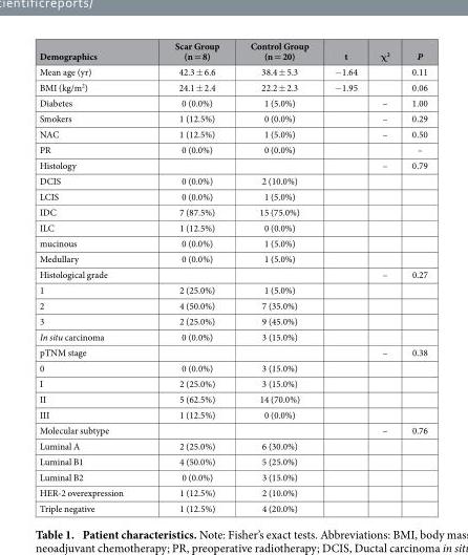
<table><thead><tr><td>Demographics</td><td>Scar Group (n = 8)</td><td>Control Group (n = 20)</td><td>t</td><td>χ<sup>2</sup></td><td>P</td></tr></thead><tbody><tr><td>Mean age (yr)</td><td>42.3 ± 6.6</td><td>38.4 ± 5.3</td><td>− 1.64</td><td></td><td>0.11</td></tr><tr><td>BMI (kg/m<sup>2</sup>)</td><td>24.1 ± 2.4</td><td>22.2 ± 2.3</td><td>− 1.95</td><td></td><td>0.06</td></tr><tr><td>Diabetes</td><td>0 (0.0%)</td><td>1 (5.0%)</td><td></td><td>–</td><td>1.00</td></tr><tr><td>Smokers</td><td>1 (12.5%)</td><td>0 (0.0%)</td><td></td><td>–</td><td>0.29</td></tr><tr><td>NAC</td><td>1 (12.5%)</td><td>1 (5.0%)</td><td></td><td>–</td><td>0.50</td></tr><tr><td>PR</td><td>0 (0.0%)</td><td>0 (0.0%)</td><td></td><td></td><td>–</td></tr><tr><td>Histology</td><td></td><td></td><td></td><td>–</td><td>0.79</td></tr><tr><td>DCIS</td><td>0 (0.0%)</td><td>2 (10.0%)</td><td></td><td></td><td></td></tr><tr><td>LCIS</td><td>0 (0.0%)</td><td>1 (5.0%)</td><td></td><td></td><td></td></tr><tr><td>IDC</td><td>7 (87.5%)</td><td>15 (75.0%)</td><td></td><td></td><td></td></tr><tr><td>ILC</td><td>1 (12.5%)</td><td>0 (0.0%)</td><td></td><td></td><td></td></tr><tr><td>mucinous</td><td>0 (0.0%)</td><td>1 (5.0%)</td><td></td><td></td><td></td></tr><tr><td>Medullary</td><td>0 (0.0%)</td><td>1 (5.0%)</td><td></td><td></td><td></td></tr><tr><td>Histological grade</td><td></td><td></td><td></td><td>–</td><td>0.27</td></tr><tr><td>1</td><td>2 (25.0%)</td><td>1 (5.0%)</td><td></td><td></td><td></td></tr><tr><td>2</td><td>4 (50.0%)</td><td>7 (35.0%)</td><td></td><td></td><td></td></tr><tr><td>3</td><td>2 (25.0%)</td><td>9 (45.0%)</td><td></td><td></td><td></td></tr><tr><td>In situ carcinoma</td><td>0 (0.0%)</td><td>3 (15.0%)</td><td></td><td></td><td></td></tr><tr><td>pTNM stage</td><td></td><td></td><td></td><td>–</td><td>0.38</td></tr><tr><td>0</td><td>0 (0.0%)</td><td>3 (15.0%)</td><td></td><td></td><td></td></tr><tr><td>I</td><td>2 (25.0%)</td><td>3 (15.0%)</td><td></td><td></td><td></td></tr><tr><td>II</td><td>5 (62.5%)</td><td>14 (70.0%)</td><td></td><td></td><td></td></tr><tr><td>III</td><td>1 (12.5%)</td><td>0 (0.0%)</td><td></td><td></td><td></td></tr><tr><td>Molecular subtype</td><td></td><td></td><td></td><td>–</td><td>0.76</td></tr><tr><td>Luminal A</td><td>2 (25.0%)</td><td>6 (30.0%)</td><td></td><td></td><td></td></tr><tr><td>Luminal B1</td><td>4 (50.0%)</td><td>5 (25.0%)</td><td></td><td></td><td></td></tr><tr><td>Luminal B2</td><td>0 (0.0%)</td><td>3 (15.0%)</td><td></td><td></td><td></td></tr><tr><td>HER-2 overexpression</td><td>1 (12.5%)</td><td>2 (10.0%)</td><td></td><td></td><td></td></tr><tr><td>Triple negative</td><td>1 (12.5%)</td><td>4 (20.0%)</td><td></td><td></td><td></td></tr></tbody></table>